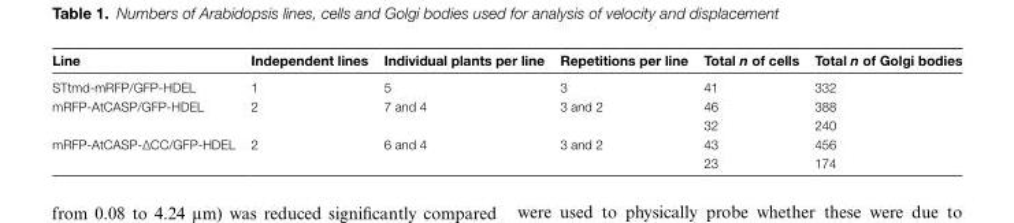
<table><thead><tr><td>Line</td><td>Independent lines</td><td>Individual plants per line</td><td>Repetitions per line</td><td>Total n of cells</td><td>Total n of Golgi bodies</td></tr></thead><tbody><tr><td>STtmd-mRFP/GFP-HDEL</td><td>1</td><td>5</td><td>3</td><td>41</td><td>332</td></tr><tr><td>mRFP-AtCASP/GFP-HDEL</td><td>2</td><td>7 and 4</td><td>3 and 2</td><td>46 32</td><td>388 240</td></tr><tr><td>mRFP-AtCASP-∆CC/GFP-HDEL</td><td>2</td><td>6 and 4</td><td>3 and 2</td><td>43 23</td><td>456 174</td></tr></tbody></table>